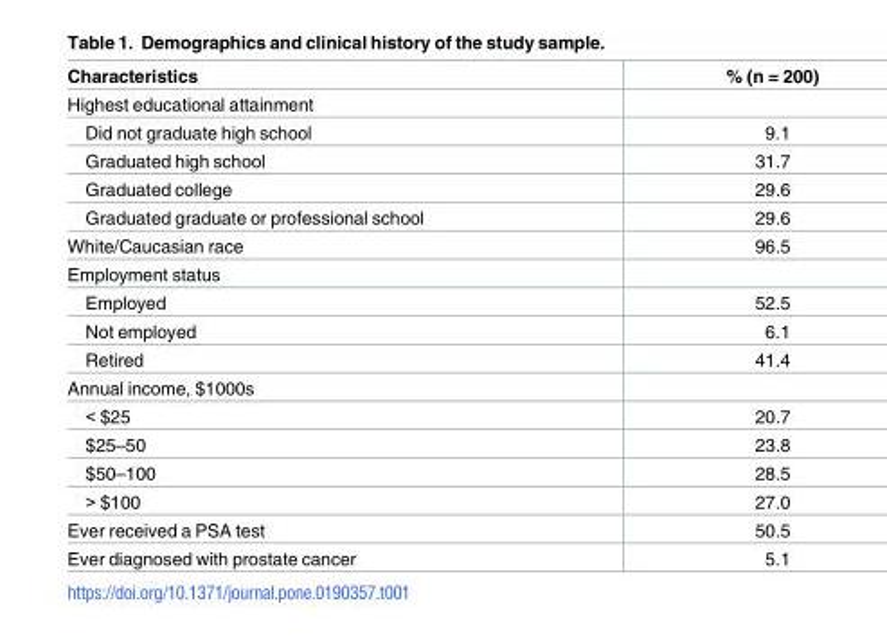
<table><thead><tr><td>Characteristics</td><td>% (n = 200)</td></tr></thead><tbody><tr><td colspan="2">Highest educational attainment</td></tr><tr><td>Did not graduate high school</td><td>9.1</td></tr><tr><td>Graduated high school</td><td>31.7</td></tr><tr><td>Graduated college</td><td>29.6</td></tr><tr><td>Graduated graduate or professional school</td><td>29.6</td></tr><tr><td>White/Caucasian race</td><td>96.5</td></tr><tr><td colspan="2">Employment status</td></tr><tr><td>Employed</td><td>52.5</td></tr><tr><td>Not employed</td><td>6.1</td></tr><tr><td>Retired</td><td>41.4</td></tr><tr><td colspan="2">Annual income, $1000s</td></tr><tr><td>&lt; $25</td><td>20.7</td></tr><tr><td>$25–50</td><td>23.8</td></tr><tr><td>$50–100</td><td>28.5</td></tr><tr><td>&gt; $100</td><td>27.0</td></tr><tr><td>Ever received a PSA test</td><td>50.5</td></tr><tr><td>Ever diagnosed with prostate cancer</td><td>5.1</td></tr></tbody></table>